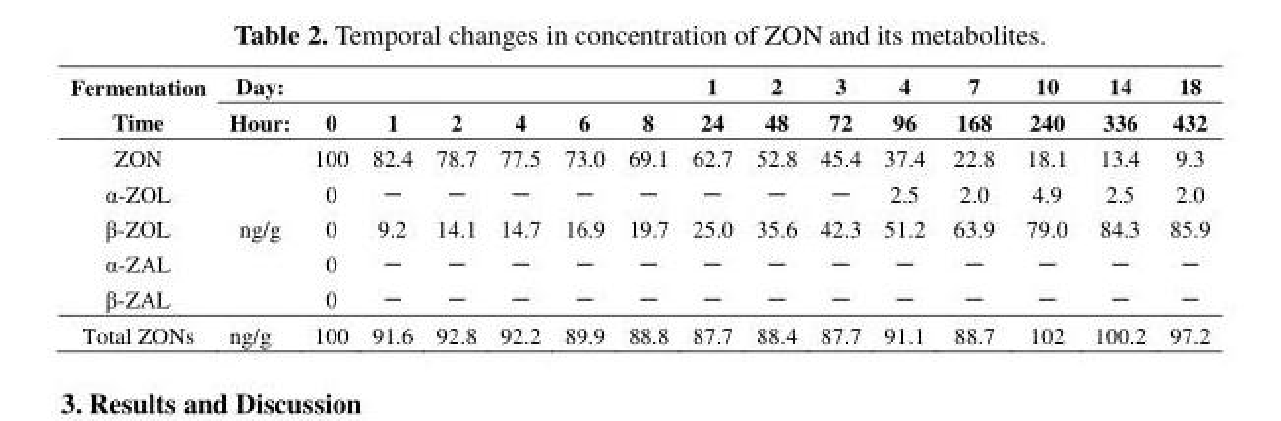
<table><thead><tr><td rowspan="2">Fermentation Time</td><td rowspan="2">Day: Hour:</td><td rowspan="2">0</td><td rowspan="2">1</td><td rowspan="2">2</td><td rowspan="2">4</td><td rowspan="2">6</td><td rowspan="2">8</td><td rowspan="2">1 24</td><td rowspan="2">2 48</td><td rowspan="2">3 72</td><td rowspan="2">4 96</td><td rowspan="2">7 168</td><td rowspan="2">10 240</td><td rowspan="2">14 336</td><td rowspan="2">18 432</td></tr><tr></tr></thead><tbody><tr><td>ZON</td><td rowspan="5">ng/g</td><td>100</td><td>82.4</td><td>78.7</td><td>77.5</td><td>73.0</td><td>69.1</td><td>62.7</td><td>52.8</td><td>45.4</td><td>37.4</td><td>22.8</td><td>18.1</td><td>13.4</td><td>9.3</td></tr><tr><td>α-ZOL</td><td>0</td><td>－</td><td>－</td><td>－</td><td>－</td><td>－</td><td>－</td><td>－</td><td>－</td><td>2.5</td><td>2.0</td><td>4.9</td><td>2.5</td><td>2.0</td></tr><tr><td>β-ZOL</td><td>0</td><td>9.2</td><td>14.1</td><td>14.7</td><td>16.9</td><td>19.7</td><td>25.0</td><td>35.6</td><td>42.3</td><td>51.2</td><td>63.9</td><td>79.0</td><td>84.3</td><td>85.9</td></tr><tr><td>α-ZAL</td><td>0</td><td>－</td><td>－</td><td>－</td><td>－</td><td>－</td><td>－</td><td>－</td><td>－</td><td>－</td><td>－</td><td>－</td><td>－</td><td>－</td></tr><tr><td>β-ZAL</td><td>0</td><td>－</td><td>－</td><td>－</td><td>－</td><td>－</td><td>－</td><td>－</td><td>－</td><td>－</td><td>－</td><td>－</td><td>－</td><td>－</td></tr><tr><td>Total ZONs</td><td>ng/g</td><td>100</td><td>91.6</td><td>92.8</td><td>92.2</td><td>89.9</td><td>88.8</td><td>87.7</td><td>88.4</td><td>87.7</td><td>91.1</td><td>88.7</td><td>102</td><td>100.2</td><td>97.2</td></tr></tbody></table>